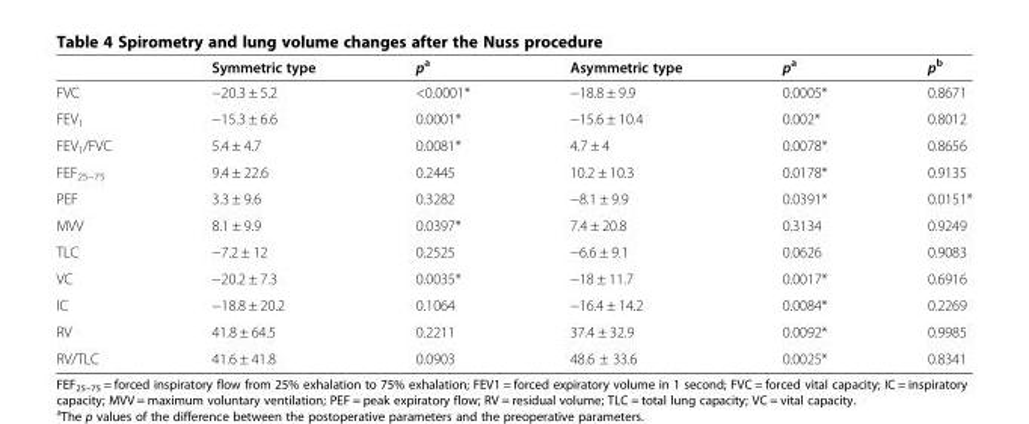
<table><thead><tr><td></td><td>Symmetric type</td><td>p<sup>a</sup></td><td>Asymmetric type</td><td>p<sup>a</sup></td><td>p<sup>b</sup></td></tr></thead><tbody><tr><td>FVC</td><td>−20.3 ± 5.2</td><td>&lt;0.0001*</td><td>−18.8 ± 9.9</td><td>0.0005*</td><td>0.8671</td></tr><tr><td>FEV<sub>1</sub></td><td>−15.3 ± 6.6</td><td>0.0001*</td><td>−15.6 ± 10.4</td><td>0.002*</td><td>0.8012</td></tr><tr><td>FEV<sub>1</sub>/FVC</td><td>5.4 ± 4.7</td><td>0.0081*</td><td>4.7 ± 4</td><td>0.0078*</td><td>0.8656</td></tr><tr><td>FEF<sub>25–75</sub></td><td>9.4 ± 22.6</td><td>0.2445</td><td>10.2 ± 10.3</td><td>0.0178*</td><td>0.9135</td></tr><tr><td>PEF</td><td>3.3 ± 9.6</td><td>0.3282</td><td>−8.1 ± 9.9</td><td>0.0391*</td><td>0.0151*</td></tr><tr><td>MVV</td><td>8.1 ± 9.9</td><td>0.0397*</td><td>7.4 ± 20.8</td><td>0.3134</td><td>0.9249</td></tr><tr><td>TLC</td><td>−7.2 ± 12</td><td>0.2525</td><td>−6.6 ± 9.1</td><td>0.0626</td><td>0.9083</td></tr><tr><td>VC</td><td>−20.2 ± 7.3</td><td>0.0035*</td><td>−18 ± 11.7</td><td>0.0017*</td><td>0.6916</td></tr><tr><td>IC</td><td>−18.8 ± 20.2</td><td>0.1064</td><td>−16.4 ± 14.2</td><td>0.0084*</td><td>0.2269</td></tr><tr><td>RV</td><td>41.8 ± 64.5</td><td>0.2211</td><td>37.4 ± 32.9</td><td>0.0092*</td><td>0.9985</td></tr><tr><td>RV/TLC</td><td>41.6 ± 41.8</td><td>0.0903</td><td>48.6 ± 33.6</td><td>0.0025*</td><td>0.8341</td></tr></tbody></table>